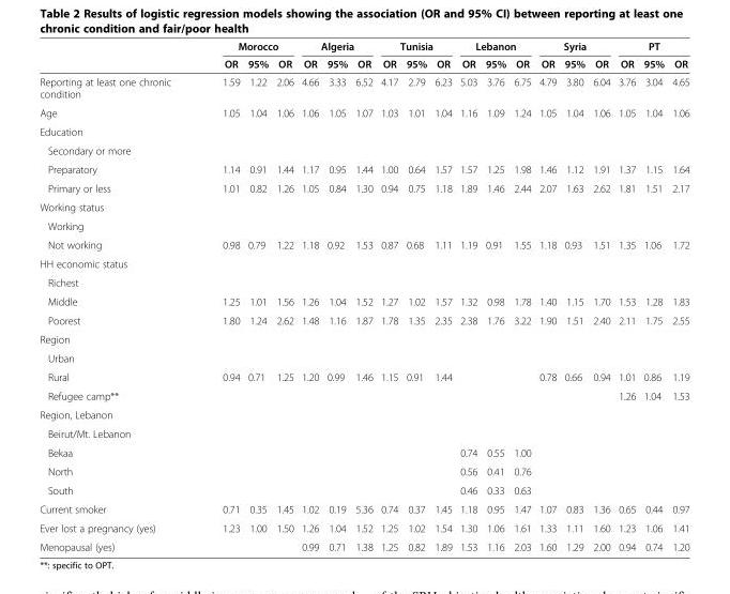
<table><thead><tr><td rowspan="2"></td><td colspan="3">Morocco</td><td colspan="3">Algeria</td><td colspan="3">Tunisia</td><td colspan="3">Lebanon</td><td colspan="3">Syria</td><td colspan="3">PT</td></tr><tr><td>OR</td><td>95%</td><td>OR</td><td>OR</td><td>95%</td><td>OR</td><td>OR</td><td>95%</td><td>OR</td><td>OR</td><td>95%</td><td>OR</td><td>OR</td><td>95%</td><td>OR</td><td>OR</td><td>95%</td><td>OR</td></tr></thead><tbody><tr><td>Reporting at least one chronic condition</td><td>1.59</td><td>1.22</td><td>2.06</td><td>4.66</td><td>3.33</td><td>6.52</td><td>4.17</td><td>2.79</td><td>6.23</td><td>5.03</td><td>3.76</td><td>6.75</td><td>4.79</td><td>3.80</td><td>6.04</td><td>3.76</td><td>3.04</td><td>4.65</td></tr><tr><td>Age</td><td>1.05</td><td>1.04</td><td>1.06</td><td>1.06</td><td>1.05</td><td>1.07</td><td>1.03</td><td>1.01</td><td>1.04</td><td>1.16</td><td>1.09</td><td>1.24</td><td>1.05</td><td>1.04</td><td>1.06</td><td>1.05</td><td>1.04</td><td>1.06</td></tr><tr><td colspan="19">Education</td></tr><tr><td colspan="19">Secondary or more</td></tr><tr><td>Preparatory</td><td>1.14</td><td>0.91</td><td>1.44</td><td>1.17</td><td>0.95</td><td>1.44</td><td>1.00</td><td>0.64</td><td>1.57</td><td>1.57</td><td>1.25</td><td>1.98</td><td>1.46</td><td>1.12</td><td>1.91</td><td>1.37</td><td>1.15</td><td>1.64</td></tr><tr><td>Primary or less</td><td>1.01</td><td>0.82</td><td>1.26</td><td>1.05</td><td>0.84</td><td>1.30</td><td>0.94</td><td>0.75</td><td>1.18</td><td>1.89</td><td>1.46</td><td>2.44</td><td>2.07</td><td>1.63</td><td>2.62</td><td>1.81</td><td>1.51</td><td>2.17</td></tr><tr><td colspan="19">Working status</td></tr><tr><td colspan="19">Working</td></tr><tr><td>Not working</td><td>0.98</td><td>0.79</td><td>1.22</td><td>1.18</td><td>0.92</td><td>1.53</td><td>0.87</td><td>0.68</td><td>1.11</td><td>1.19</td><td>0.91</td><td>1.55</td><td>1.18</td><td>0.93</td><td>1.51</td><td>1.35</td><td>1.06</td><td>1.72</td></tr><tr><td colspan="19">HH economic status</td></tr><tr><td colspan="19">Richest</td></tr><tr><td>Middle</td><td>1.25</td><td>1.01</td><td>1.56</td><td>1.26</td><td>1.04</td><td>1.52</td><td>1.27</td><td>1.02</td><td>1.57</td><td>1.32</td><td>0.98</td><td>1.78</td><td>1.40</td><td>1.15</td><td>1.70</td><td>1.53</td><td>1.28</td><td>1.83</td></tr><tr><td>Poorest</td><td>1.80</td><td>1.24</td><td>2.62</td><td>1.48</td><td>1.16</td><td>1.87</td><td>1.78</td><td>1.35</td><td>2.35</td><td>2.38</td><td>1.76</td><td>3.22</td><td>1.90</td><td>1.51</td><td>2.40</td><td>2.11</td><td>1.75</td><td>2.55</td></tr><tr><td colspan="19">Region</td></tr><tr><td colspan="19">Urban</td></tr><tr><td>Rural</td><td>0.94</td><td>0.71</td><td>1.25</td><td>1.20</td><td>0.99</td><td>1.46</td><td>1.15</td><td>0.91</td><td>1.44</td><td></td><td></td><td></td><td>0.78</td><td>0.66</td><td>0.94</td><td>1.01</td><td>0.86</td><td>1.19</td></tr><tr><td>Refugee camp**</td><td></td><td></td><td></td><td></td><td></td><td></td><td></td><td></td><td></td><td></td><td></td><td></td><td></td><td></td><td></td><td>1.26</td><td>1.04</td><td>1.53</td></tr><tr><td colspan="19">Region, Lebanon</td></tr><tr><td colspan="19">Beirut/Mt. Lebanon</td></tr><tr><td>Bekaa</td><td></td><td></td><td></td><td></td><td></td><td></td><td></td><td></td><td></td><td>0.74</td><td>0.55</td><td>1.00</td><td></td><td></td><td></td><td></td><td></td><td></td></tr><tr><td>North</td><td></td><td></td><td></td><td></td><td></td><td></td><td></td><td></td><td></td><td>0.56</td><td>0.41</td><td>0.76</td><td></td><td></td><td></td><td></td><td></td><td></td></tr><tr><td>South</td><td></td><td></td><td></td><td></td><td></td><td></td><td></td><td></td><td></td><td>0.46</td><td>0.33</td><td>0.63</td><td></td><td></td><td></td><td></td><td></td><td></td></tr><tr><td>Current smoker</td><td>0.71</td><td>0.35</td><td>1.45</td><td>1.02</td><td>0.19</td><td>5.36</td><td>0.74</td><td>0.37</td><td>1.45</td><td>1.18</td><td>0.95</td><td>1.47</td><td>1.07</td><td>0.83</td><td>1.36</td><td>0.65</td><td>0.44</td><td>0.97</td></tr><tr><td>Ever lost a pregnancy (yes)</td><td>1.23</td><td>1.00</td><td>1.50</td><td>1.26</td><td>1.04</td><td>1.52</td><td>1.25</td><td>1.02</td><td>1.54</td><td>1.30</td><td>1.06</td><td>1.61</td><td>1.33</td><td>1.11</td><td>1.60</td><td>1.23</td><td>1.06</td><td>1.41</td></tr><tr><td>Menopausal (yes)</td><td></td><td></td><td></td><td>0.99</td><td>0.71</td><td>1.38</td><td>1.25</td><td>0.82</td><td>1.89</td><td>1.53</td><td>1.16</td><td>2.03</td><td>1.60</td><td>1.29</td><td>2.00</td><td>0.94</td><td>0.74</td><td>1.20</td></tr></tbody></table>